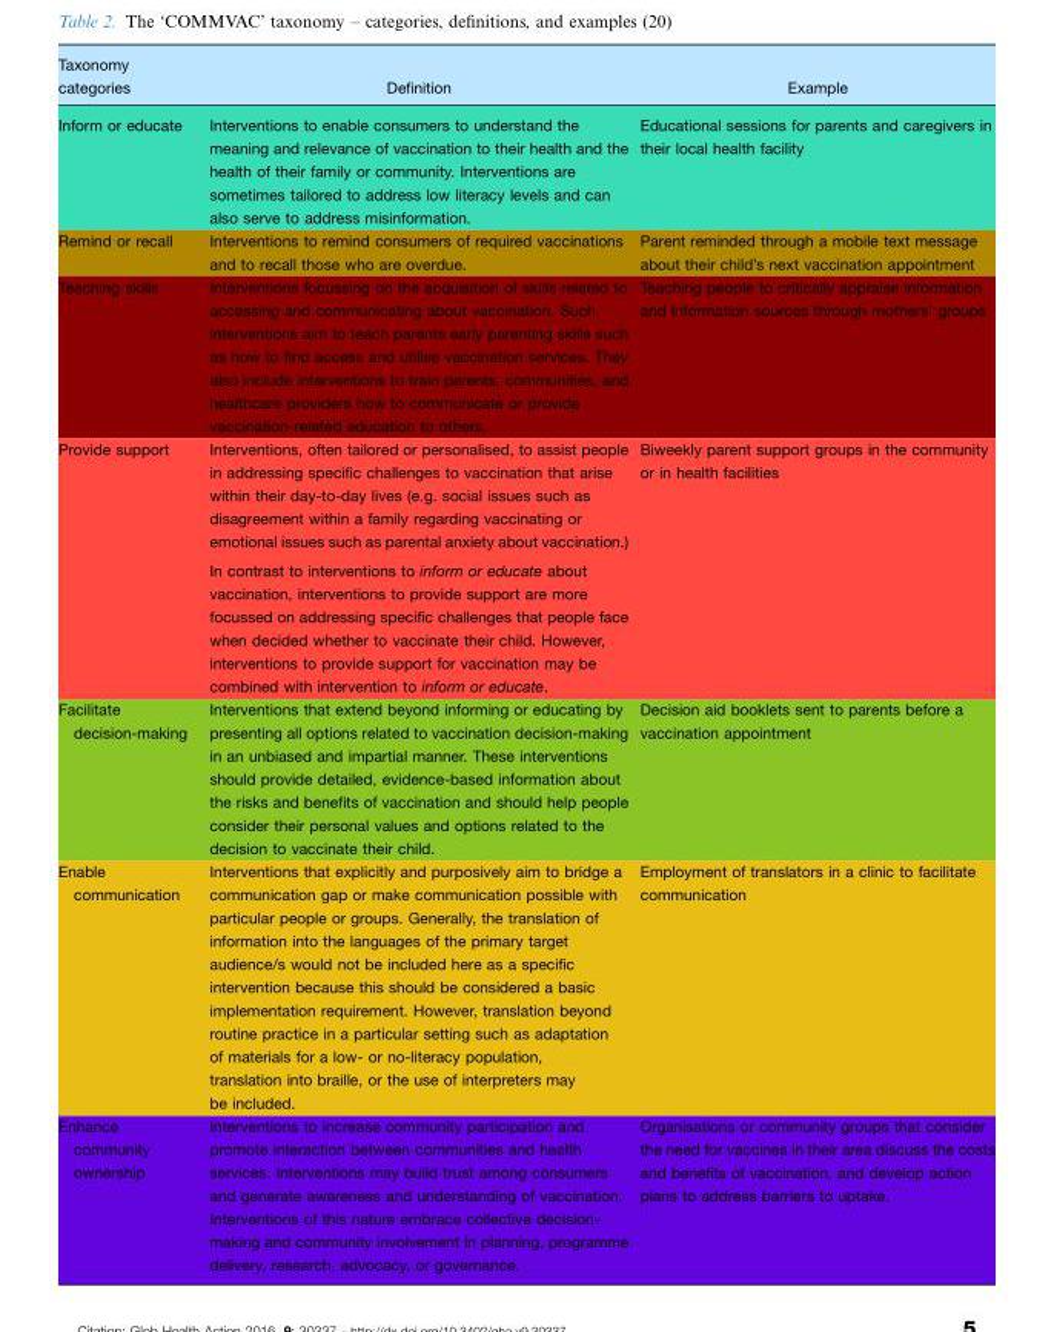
<table><thead><tr><td>Taxonomy categories</td><td>Definition</td><td>Example</td></tr></thead><tbody><tr><td>Inform or educate</td><td>Interventions to enable consumers to understand the meaning and relevance of vaccination to their health and the health of their family or community. Interventions are sometimes tailored to address low literacy levels and can also serve to address misinformation.</td><td>Educational sessions for parents and caregivers in their local health facility</td></tr><tr><td>Remind or recall</td><td>Interventions to remind consumers of required vaccinations and to recall those who are overdue.</td><td>Parent reminded through a mobile text message about their child’s next vaccination appointment</td></tr><tr><td>Teaching skills</td><td>Interventions focussing on the acquisition of skills related to accessing and communicating about vaccination. Such interventions aim to teach parents early parenting skills such as how to find access and utilise vaccination services. They also include interventions to train parents, communities, and healthcare providers how to communicate or provide vaccination-related education to others.</td><td>Teaching people to critically appraise information and information sources through mothers’ groups</td></tr><tr><td rowspan="2">Provide support</td><td>Interventions, often tailored or personalised, to assist people in addressing specific challenges to vaccination that arise within their day-to-day lives (e.g. social issues such as disagreement within a family regarding vaccinating or emotional issues such as parental anxiety about vaccination.)</td><td>Biweekly parent support groups in the community or in health facilities</td></tr><tr><td>In contrast to interventions to inform or educate about vaccination, interventions to provide support are more focussed on addressing specific challenges that people face when decided whether to vaccinate their child. However, interventions to provide support for vaccination may be combined with intervention to inform or educate.</td><td></td></tr><tr><td>Facilitate decision-making</td><td>Interventions that extend beyond informing or educating by presenting all options related to vaccination decision-making in an unbiased and impartial manner. These interventions should provide detailed, evidence-based information about the risks and benefits of vaccination and should help people consider their personal values and options related to the decision to vaccinate their child.</td><td>Decision aid booklets sent to parents before a vaccination appointment</td></tr><tr><td>Enable communication</td><td>Interventions that explicitly and purposively aim to bridge a communication gap or make communication possible with particular people or groups. Generally, the translation of information into the languages of the primary target audience/s would not be included here as a specific intervention because this should be considered a basic implementation requirement. However, translation beyond routine practice in a particular setting such as adaptation of materials for a low- or no-literacy population, translation into braille, or the use of interpreters may be included.</td><td>Employment of translators in a clinic to facilitate communication</td></tr><tr><td>Enhance community ownership</td><td>Interventions to increase community participation and promote interaction between communities and health services. Interventions may build trust among consumers and generate awareness and understanding of vaccination. Interventions of this nature embrace collective decision- making and community involvement in planning, programme delivery, research, advocacy, or governance.</td><td>Organisations or community groups that consider the need for vaccines in their area discuss the costs and benefits of vaccination, and develop action plans to address barriers to uptake.</td></tr></tbody></table>